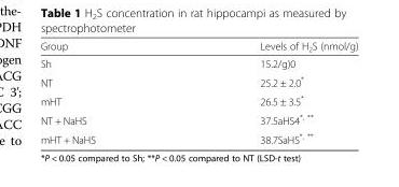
<table><thead><tr><td>Group</td><td>Levels of H<sub>2</sub>S (nmol/g)</td></tr></thead><tbody><tr><td>Sh</td><td>15.2/g)0</td></tr><tr><td>NT</td><td>25.2 ± 2.0*</td></tr><tr><td>mHT</td><td>26.5 ± 3.5*</td></tr><tr><td>NT + NaHS</td><td>37.5aHS4<sup>*, **</sup></td></tr><tr><td>mHT + NaHS</td><td>38.7SaHS<sup>*, **</sup></td></tr></tbody></table>